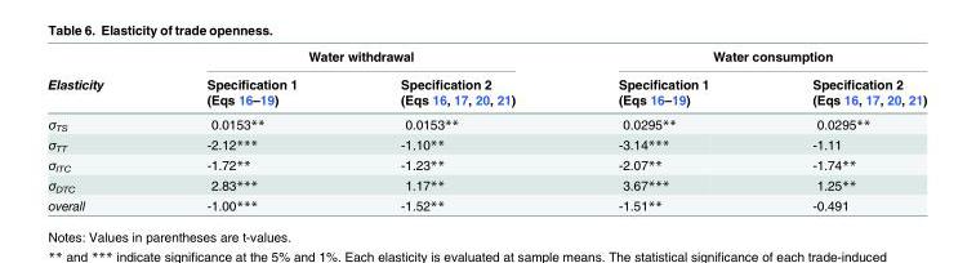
<table><thead><tr><td rowspan="3">Elasticity</td><td colspan="2">Water withdrawal</td><td colspan="2">Water consumption</td></tr><tr><td rowspan="2">Specification 1 (Eqs 16–19)</td><td rowspan="2">Specification 2 (Eqs 16, 17, 20, 21)</td><td rowspan="2">Specification 1 (Eqs 16–19)</td><td rowspan="2">Specification 2 (Eqs 16, 17, 20, 21)</td></tr><tr></tr></thead><tbody><tr><td>σ<sub>TS</sub></td><td>0.0153**</td><td>0.0153**</td><td>0.0295**</td><td>0.0295**</td></tr><tr><td>σ<sub>TT</sub></td><td>-2.12***</td><td>-1.10**</td><td>-3.14***</td><td>-1.11</td></tr><tr><td>σ<sub>ITC</sub></td><td>-1.72**</td><td>-1.23**</td><td>-2.07**</td><td>-1.74**</td></tr><tr><td>σ<sub>DTC</sub></td><td>2.83***</td><td>1.17**</td><td>3.67***</td><td>1.25**</td></tr><tr><td>overall</td><td>-1.00***</td><td>-1.52**</td><td>-1.51**</td><td>-0.491</td></tr></tbody></table>